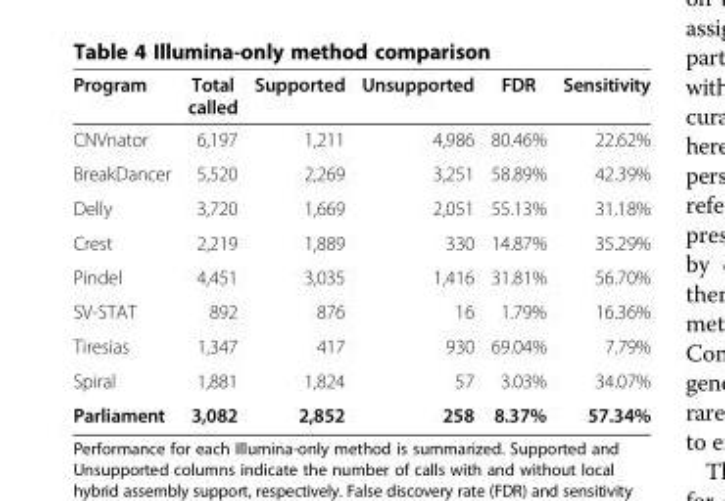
<table><thead><tr><td>Program</td><td>Total called</td><td>Supported</td><td>Unsupported</td><td>FDR</td><td>Sensitivity</td></tr></thead><tbody><tr><td>CNVnator</td><td>6,197</td><td>1,211</td><td>4,986</td><td>80.46%</td><td>22.62%</td></tr><tr><td>BreakDancer</td><td>5,520</td><td>2,269</td><td>3,251</td><td>58.89%</td><td>42.39%</td></tr><tr><td>Delly</td><td>3,720</td><td>1,669</td><td>2,051</td><td>55.13%</td><td>31.18%</td></tr><tr><td>Crest</td><td>2,219</td><td>1,889</td><td>330</td><td>14.87%</td><td>35.29%</td></tr><tr><td>Pindel</td><td>4,451</td><td>3,035</td><td>1,416</td><td>31.81%</td><td>56.70%</td></tr><tr><td>SV-STAT</td><td>892</td><td>876</td><td>16</td><td>1.79%</td><td>16.36%</td></tr><tr><td>Tiresias</td><td>1,347</td><td>417</td><td>930</td><td>69.04%</td><td>7.79%</td></tr><tr><td>Spiral</td><td>1,881</td><td>1,824</td><td>57</td><td>3.03%</td><td>34.07%</td></tr><tr><td>Parliament</td><td>3,082</td><td>2,852</td><td>258</td><td>8.37%</td><td>57.34%</td></tr></tbody></table>